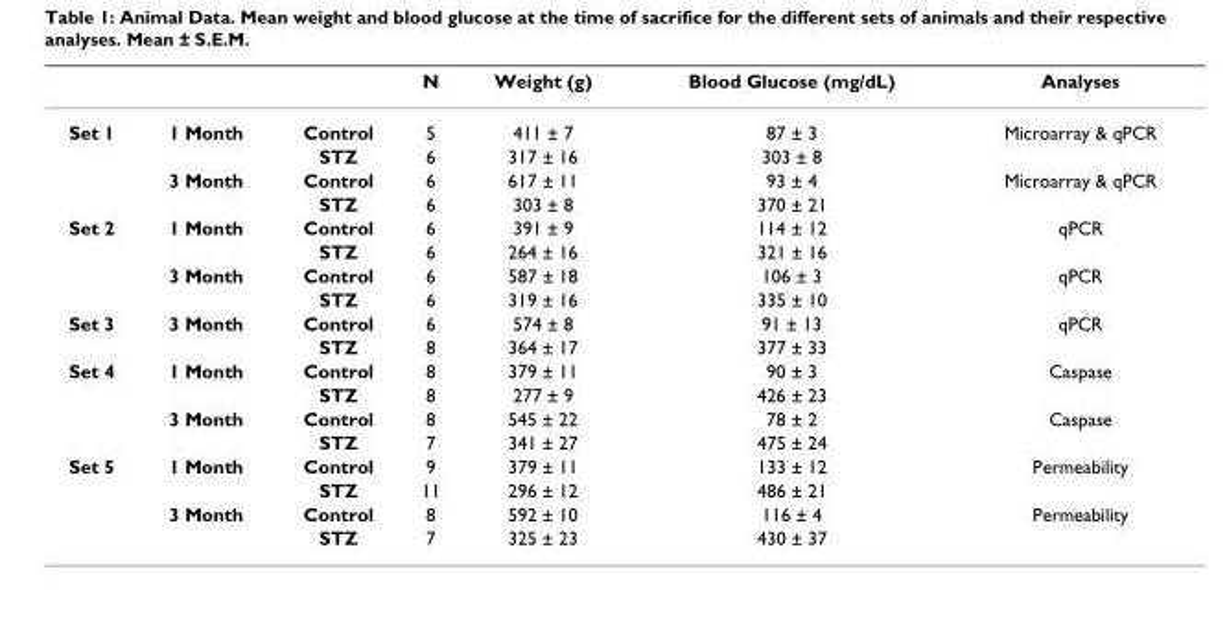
<table><thead><tr><td></td><td></td><td></td><td>N</td><td>Weight (g)</td><td>Blood Glucose (mg/dL)</td><td>Analyses</td></tr></thead><tbody><tr><td rowspan="4">Set 1</td><td>1 Month</td><td>Control</td><td>5</td><td>411 ± 7</td><td>87 ± 3</td><td>Microarray &amp; qPCR</td></tr><tr><td></td><td>STZ</td><td>6</td><td>317 ± 16</td><td>303 ± 8</td><td></td></tr><tr><td>3 Month</td><td>Control</td><td>6</td><td>617 ± 11</td><td>93 ± 4</td><td>Microarray &amp; qPCR</td></tr><tr><td></td><td>STZ</td><td>6</td><td>303 ± 8</td><td>370 ± 21</td><td></td></tr><tr><td rowspan="4">Set 2</td><td>1 Month</td><td>Control</td><td>6</td><td>391 ± 9</td><td>114 ± 12</td><td>qPCR</td></tr><tr><td></td><td>STZ</td><td>6</td><td>264 ± 16</td><td>321 ± 16</td><td></td></tr><tr><td>3 Month</td><td>Control</td><td>6</td><td>587 ± 18</td><td>106 ± 3</td><td>qPCR</td></tr><tr><td></td><td>STZ</td><td>6</td><td>319 ± 16</td><td>335 ± 10</td><td></td></tr><tr><td rowspan="2">Set 3</td><td>3 Month</td><td>Control</td><td>6</td><td>574 ± 8</td><td>91 ± 13</td><td>qPCR</td></tr><tr><td></td><td>STZ</td><td>8</td><td>364 ± 17</td><td>377 ± 33</td><td></td></tr><tr><td rowspan="4">Set 4</td><td>1 Month</td><td>Control</td><td>8</td><td>379 ± 11</td><td>90 ± 3</td><td>Caspase</td></tr><tr><td></td><td>STZ</td><td>8</td><td>277 ± 9</td><td>426 ± 23</td><td></td></tr><tr><td>3 Month</td><td>Control</td><td>8</td><td>545 ± 22</td><td>78 ± 2</td><td>Caspase</td></tr><tr><td></td><td>STZ</td><td>7</td><td>341 ± 27</td><td>475 ± 24</td><td></td></tr><tr><td rowspan="4">Set 5</td><td>1 Month</td><td>Control</td><td>9</td><td>379 ± 11</td><td>133 ± 12</td><td>Permeability</td></tr><tr><td></td><td>STZ</td><td>11</td><td>296 ± 12</td><td>486 ± 21</td><td></td></tr><tr><td>3 Month</td><td>Control</td><td>8</td><td>592 ± 10</td><td>116 ± 4</td><td>Permeability</td></tr><tr><td></td><td>STZ</td><td>7</td><td>325 ± 23</td><td>430 ± 37</td><td></td></tr></tbody></table>